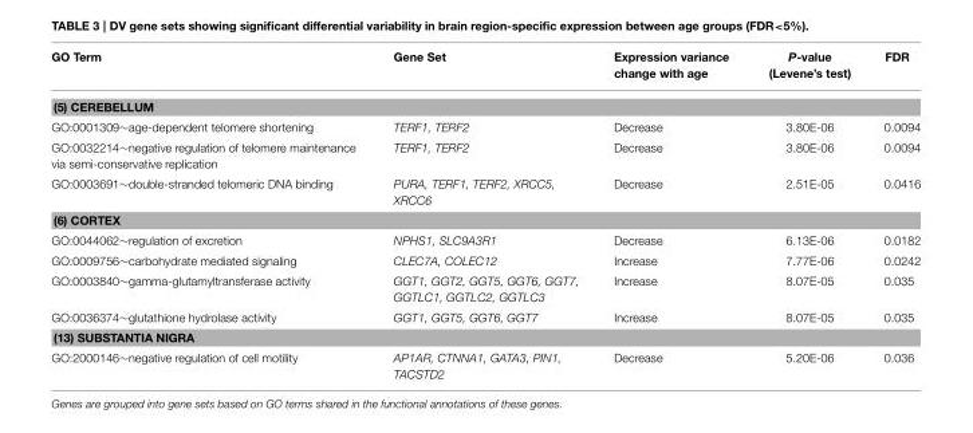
<table><thead><tr><td>GO Term</td><td>Gene Set</td><td>Expression variance change with age</td><td>P-value (Levene’s test)</td><td>FDR</td></tr></thead><tbody><tr><td colspan="5">(5) CEREBELLUM</td></tr><tr><td>GO:0001309∼age-dependent telomere shortening</td><td>TERF1, TERF2</td><td>Decrease</td><td>3.80E-06</td><td>0.0094</td></tr><tr><td>GO:0032214∼negative regulation of telomere maintenance via semi-conservative replication</td><td>TERF1, TERF2</td><td>Decrease</td><td>3.80E-06</td><td>0.0094</td></tr><tr><td>GO:0003691∼double-stranded telomeric DNA binding</td><td>PURA, TERF1, TERF2, XRCC5, XRCC6</td><td>Decrease</td><td>2.51E-05</td><td>0.0416</td></tr><tr><td colspan="5">(6) CORTEX</td></tr><tr><td>GO:0044062∼regulation of excretion</td><td>NPHS1, SLC9A3R1</td><td>Decrease</td><td>6.13E-06</td><td>0.0182</td></tr><tr><td>GO:0009756∼carbohydrate mediated signaling</td><td>CLEC7A, COLEC12</td><td>Increase</td><td>7.77E-06</td><td>0.0242</td></tr><tr><td>GO:0003840∼gamma-glutamyltransferase activity</td><td>GGT1, GGT2, GGT5, GGT6, GGT7, GGTLC1, GGTLC2, GGTLC3</td><td>Increase</td><td>8.07E-05</td><td>0.035</td></tr><tr><td>GO:0036374∼glutathione hydrolase activity</td><td>GGT1, GGT5, GGT6, GGT7</td><td>Increase</td><td>8.07E-05</td><td>0.035</td></tr><tr><td colspan="5">(13) SUBSTANTIA NIGRA</td></tr><tr><td>GO:2000146∼negative regulation of cell motility</td><td>AP1AR, CTNNA1, GATA3, PIN1, TACSTD2</td><td>Decrease</td><td>5.20E-06</td><td>0.036</td></tr></tbody></table>